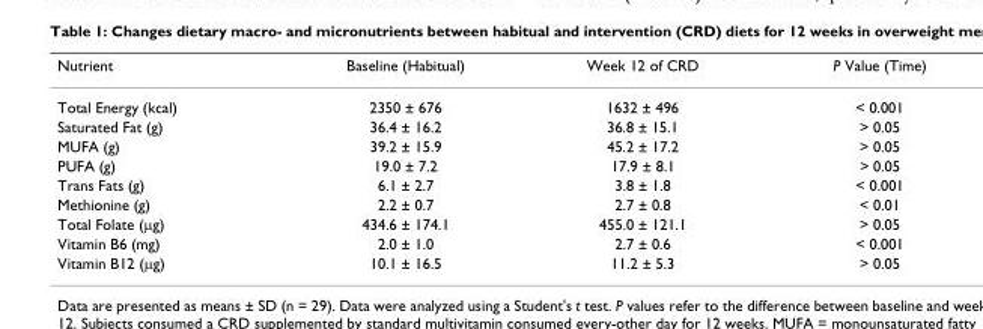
<table><thead><tr><td>Nutrient</td><td>Baseline (Habitual)</td><td>Week 12 of CRD</td><td>P Value (Time)</td></tr></thead><tbody><tr><td>Total Energy (kcal)</td><td>2350 ± 676</td><td>1632 ± 496</td><td>&lt; 0.001</td></tr><tr><td>Saturated Fat (g)</td><td>36.4 ± 16.2</td><td>36.8 ± 15.1</td><td>&gt; 0.05</td></tr><tr><td>MUFA (g)</td><td>39.2 ± 15.9</td><td>45.2 ± 17.2</td><td>&gt; 0.05</td></tr><tr><td>PUFA (g)</td><td>19.0 ± 7.2</td><td>17.9 ± 8.1</td><td>&gt; 0.05</td></tr><tr><td>Trans Fats (g)</td><td>6.1 ± 2.7</td><td>3.8 ± 1.8</td><td>&lt; 0.001</td></tr><tr><td>Methionine (g)</td><td>2.2 ± 0.7</td><td>2.7 ± 0.8</td><td>&lt; 0.01</td></tr><tr><td>Total Folate (µg)</td><td>434.6 ± 174.1</td><td>455.0 ± 121.1</td><td>&gt; 0.05</td></tr><tr><td>Vitamin B6 (mg)</td><td>2.0 ± 1.0</td><td>2.7 ± 0.6</td><td>&lt; 0.001</td></tr><tr><td>Vitamin B12 (µg)</td><td>10.1 ± 16.5</td><td>11.2 ± 5.3</td><td>&gt; 0.05</td></tr></tbody></table>